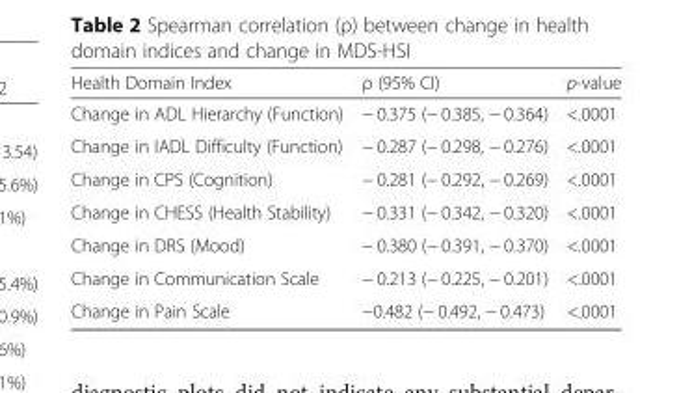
<table><thead><tr><td>Health Domain Index</td><td>ρ (95% CI)</td><td>p-value</td></tr></thead><tbody><tr><td>Change in ADL Hierarchy (Function)</td><td>− 0.375 (− 0.385, − 0.364)</td><td>&lt;.0001</td></tr><tr><td>Change in IADL Difficulty (Function)</td><td>− 0.287 (− 0.298, − 0.276)</td><td>&lt;.0001</td></tr><tr><td>Change in CPS (Cognition)</td><td>− 0.281 (− 0.292, − 0.269)</td><td>&lt;.0001</td></tr><tr><td>Change in CHESS (Health Stability)</td><td>− 0.331 (− 0.342, − 0.320)</td><td>&lt;.0001</td></tr><tr><td>Change in DRS (Mood)</td><td>− 0.380 (− 0.391, − 0.370)</td><td>&lt;.0001</td></tr><tr><td>Change in Communication Scale</td><td>− 0.213 (− 0.225, − 0.201)</td><td>&lt;.0001</td></tr><tr><td>Change in Pain Scale</td><td>−0.482 (− 0.492, − 0.473)</td><td>&lt;.0001</td></tr></tbody></table>